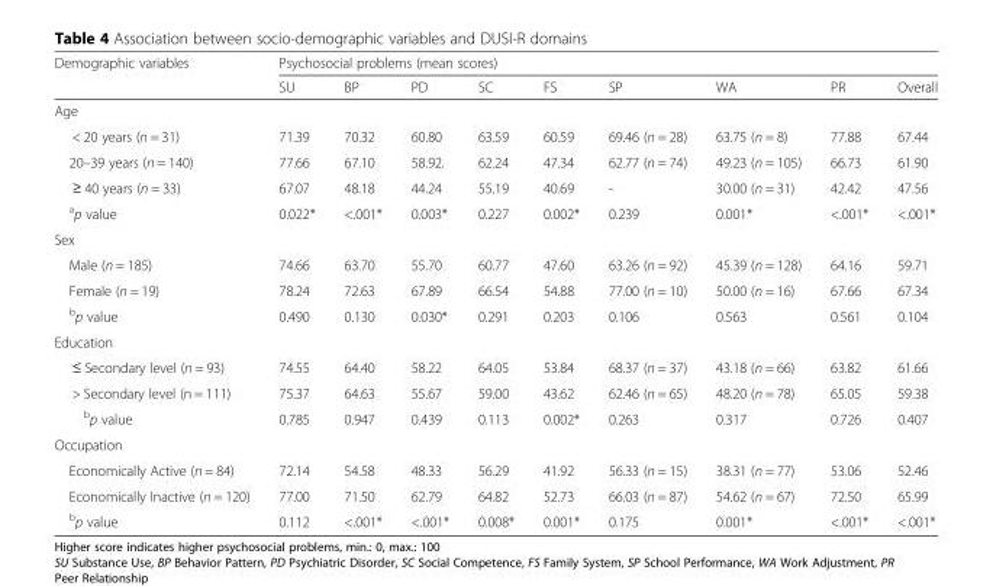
<table><thead><tr><td rowspan="2">Demographic variables</td><td colspan="9">Psychosocial problems (mean scores)</td></tr><tr><td>SU</td><td>BP</td><td>PD</td><td>SC</td><td>FS</td><td>SP</td><td>WA</td><td>PR</td><td>Overall</td></tr></thead><tbody><tr><td colspan="10">Age</td></tr><tr><td>&lt; 20 years (n = 31)</td><td>71.39</td><td>70.32</td><td>60.80</td><td>63.59</td><td>60.59</td><td>69.46 (n = 28)</td><td>63.75 (n = 8)</td><td>77.88</td><td>67.44</td></tr><tr><td>20–39 years (n = 140)</td><td>77.66</td><td>67.10</td><td>58.92.</td><td>62.24</td><td>47.34</td><td>62.77 (n = 74)</td><td>49.23 (n = 105)</td><td>66.73</td><td>61.90</td></tr><tr><td>≥ 40 years (n = 33)</td><td>67.07</td><td>48.18</td><td>44.24</td><td>55.19</td><td>40.69</td><td>-</td><td>30.00 (n = 31)</td><td>42.42</td><td>47.56</td></tr><tr><td><sup>a</sup>p value</td><td>0.022*</td><td>&lt;.001*</td><td>0.003*</td><td>0.227</td><td>0.002*</td><td>0.239</td><td>0.001*</td><td>&lt;.001*</td><td>&lt;.001*</td></tr><tr><td colspan="10">Sex</td></tr><tr><td>Male (n = 185)</td><td>74.66</td><td>63.70</td><td>55.70</td><td>60.77</td><td>47.60</td><td>63.26 (n = 92)</td><td>45.39 (n = 128)</td><td>64.16</td><td>59.71</td></tr><tr><td>Female (n = 19)</td><td>78.24</td><td>72.63</td><td>67.89</td><td>66.54</td><td>54.88</td><td>77.00 (n = 10)</td><td>50.00 (n = 16)</td><td>67.66</td><td>67.34</td></tr><tr><td><sup>b</sup>p value</td><td>0.490</td><td>0.130</td><td>0.030*</td><td>0.291</td><td>0.203</td><td>0.106</td><td>0.563</td><td>0.561</td><td>0.104</td></tr><tr><td colspan="10">Education</td></tr><tr><td>≤ Secondary level (n = 93)</td><td>74.55</td><td>64.40</td><td>58.22</td><td>64.05</td><td>53.84</td><td>68.37 (n = 37)</td><td>43.18 (n = 66)</td><td>63.82</td><td>61.66</td></tr><tr><td>&gt; Secondary level (n = 111)</td><td>75.37</td><td>64.63</td><td>55.67</td><td>59.00</td><td>43.62</td><td>62.46 (n = 65)</td><td>48.20 (n = 78)</td><td>65.05</td><td>59.38</td></tr><tr><td><sup>b</sup>p value</td><td>0.785</td><td>0.947</td><td>0.439</td><td>0.113</td><td>0.002*</td><td>0.263</td><td>0.317</td><td>0.726</td><td>0.407</td></tr><tr><td colspan="10">Occupation</td></tr><tr><td>Economically Active (n = 84)</td><td>72.14</td><td>54.58</td><td>48.33</td><td>56.29</td><td>41.92</td><td>56.33 (n = 15)</td><td>38.31 (n = 77)</td><td>53.06</td><td>52.46</td></tr><tr><td>Economically Inactive (n = 120)</td><td>77.00</td><td>71.50</td><td>62.79</td><td>64.82</td><td>52.73</td><td>66.03 (n = 87)</td><td>54.62 (n = 67)</td><td>72.50</td><td>65.99</td></tr><tr><td><sup>b</sup>p value</td><td>0.112</td><td>&lt;.001*</td><td>&lt;.001*</td><td>0.008*</td><td>0.001*</td><td>0.175</td><td>0.001*</td><td>&lt;.001*</td><td>&lt;.001*</td></tr></tbody></table>